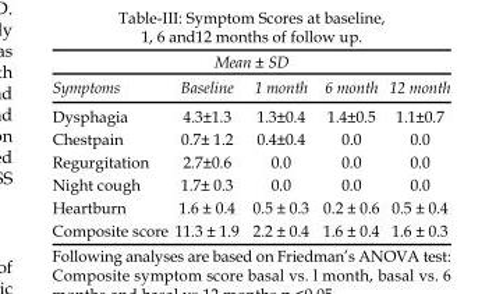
<table><thead><tr><td rowspan="2">Symptoms</td><td colspan="2">Mean ± SD</td><td rowspan="2">6 month</td><td rowspan="2">12 month</td></tr><tr><td>Baseline</td><td>1 month</td></tr></thead><tbody><tr><td>Dysphagia</td><td>4.3±1.3</td><td>1.3±0.4</td><td>1.4±0.5</td><td>1.1±0.7</td></tr><tr><td>Chestpain</td><td>0.7± 1.2</td><td>0.4±0.4</td><td>0.0</td><td>0.0</td></tr><tr><td>Regurgitation</td><td>2.7±0.6</td><td>0.0</td><td>0.0</td><td>0.0</td></tr><tr><td>Night cough</td><td>1.7± 0.3</td><td>0.0</td><td>0.0</td><td>0.0</td></tr><tr><td>Heartburn</td><td>1.6 ± 0.4</td><td>0.5 ± 0.3</td><td>0.2 ± 0.6</td><td>0.5 ± 0.4</td></tr><tr><td>Composite score</td><td>11.3 ± 1.9</td><td>2.2 ± 0.4</td><td>1.6 ± 0.4</td><td>1.6 ± 0.3</td></tr></tbody></table>